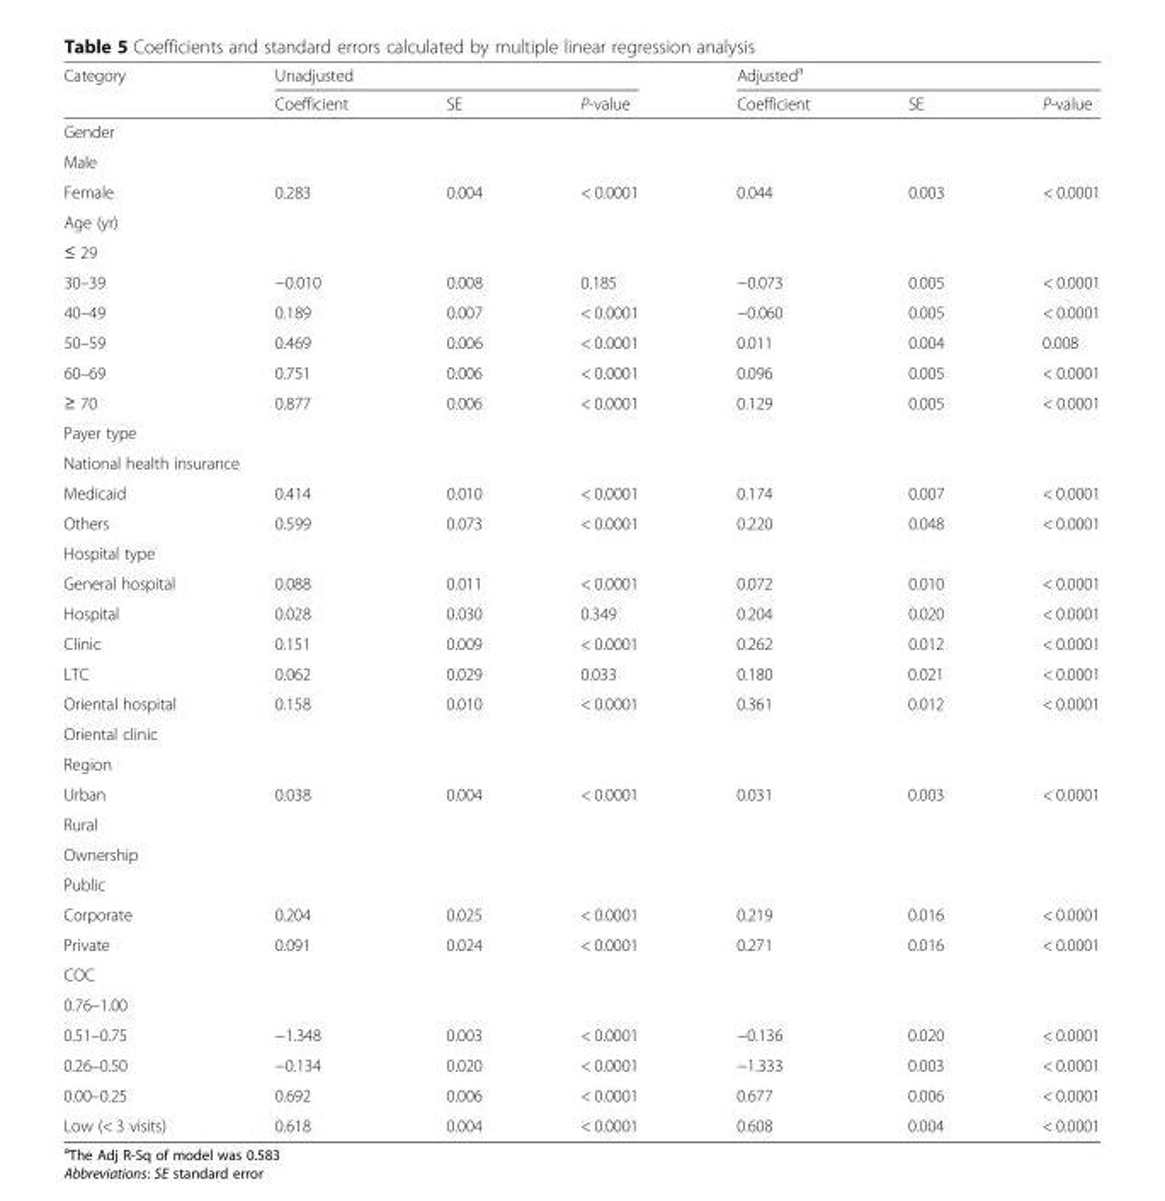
<table><thead><tr><td rowspan="2">Category</td><td colspan="3">Unadjusted</td><td colspan="3">Adjusted<sup>a</sup></td></tr><tr><td>Coefficient</td><td>SE</td><td>P-value</td><td>Coefficient</td><td>SE</td><td>P-value</td></tr></thead><tbody><tr><td colspan="7">Gender</td></tr><tr><td colspan="7">Male</td></tr><tr><td>Female</td><td>0.283</td><td>0.004</td><td>&lt; 0.0001</td><td>0.044</td><td>0.003</td><td>&lt; 0.0001</td></tr><tr><td colspan="7">Age (yr)</td></tr><tr><td colspan="7">≤ 29</td></tr><tr><td>30–39</td><td>−0.010</td><td>0.008</td><td>0.185</td><td>−0.073</td><td>0.005</td><td>&lt; 0.0001</td></tr><tr><td>40–49</td><td>0.189</td><td>0.007</td><td>&lt; 0.0001</td><td>−0.060</td><td>0.005</td><td>&lt; 0.0001</td></tr><tr><td>50–59</td><td>0.469</td><td>0.006</td><td>&lt; 0.0001</td><td>0.011</td><td>0.004</td><td>0.008</td></tr><tr><td>60–69</td><td>0.751</td><td>0.006</td><td>&lt; 0.0001</td><td>0.096</td><td>0.005</td><td>&lt; 0.0001</td></tr><tr><td>≥ 70</td><td>0.877</td><td>0.006</td><td>&lt; 0.0001</td><td>0.129</td><td>0.005</td><td>&lt; 0.0001</td></tr><tr><td colspan="7">Payer type</td></tr><tr><td colspan="7">National health insurance</td></tr><tr><td>Medicaid</td><td>0.414</td><td>0.010</td><td>&lt; 0.0001</td><td>0.174</td><td>0.007</td><td>&lt; 0.0001</td></tr><tr><td>Others</td><td>0.599</td><td>0.073</td><td>&lt; 0.0001</td><td>0.220</td><td>0.048</td><td>&lt; 0.0001</td></tr><tr><td colspan="7">Hospital type</td></tr><tr><td>General hospital</td><td>0.088</td><td>0.011</td><td>&lt; 0.0001</td><td>0.072</td><td>0.010</td><td>&lt; 0.0001</td></tr><tr><td>Hospital</td><td>0.028</td><td>0.030</td><td>0.349</td><td>0.204</td><td>0.020</td><td>&lt; 0.0001</td></tr><tr><td>Clinic</td><td>0.151</td><td>0.009</td><td>&lt; 0.0001</td><td>0.262</td><td>0.012</td><td>&lt; 0.0001</td></tr><tr><td>LTC</td><td>0.062</td><td>0.029</td><td>0.033</td><td>0.180</td><td>0.021</td><td>&lt; 0.0001</td></tr><tr><td>Oriental hospital</td><td>0.158</td><td>0.010</td><td>&lt; 0.0001</td><td>0.361</td><td>0.012</td><td>&lt; 0.0001</td></tr><tr><td colspan="7">Oriental clinic</td></tr><tr><td colspan="7">Region</td></tr><tr><td>Urban</td><td>0.038</td><td>0.004</td><td>&lt; 0.0001</td><td>0.031</td><td>0.003</td><td>&lt; 0.0001</td></tr><tr><td colspan="7">Rural</td></tr><tr><td colspan="7">Ownership</td></tr><tr><td colspan="7">Public</td></tr><tr><td>Corporate</td><td>0.204</td><td>0.025</td><td>&lt; 0.0001</td><td>0.219</td><td>0.016</td><td>&lt; 0.0001</td></tr><tr><td>Private</td><td>0.091</td><td>0.024</td><td>&lt; 0.0001</td><td>0.271</td><td>0.016</td><td>&lt; 0.0001</td></tr><tr><td colspan="7">COC</td></tr><tr><td colspan="7">0.76–1.00</td></tr><tr><td>0.51–0.75</td><td>−1.348</td><td>0.003</td><td>&lt; 0.0001</td><td>−0.136</td><td>0.020</td><td>&lt; 0.0001</td></tr><tr><td>0.26–0.50</td><td>−0.134</td><td>0.020</td><td>&lt; 0.0001</td><td>−1.333</td><td>0.003</td><td>&lt; 0.0001</td></tr><tr><td>0.00–0.25</td><td>0.692</td><td>0.006</td><td>&lt; 0.0001</td><td>0.677</td><td>0.006</td><td>&lt; 0.0001</td></tr><tr><td>Low (&lt; 3 visits)</td><td>0.618</td><td>0.004</td><td>&lt; 0.0001</td><td>0.608</td><td>0.004</td><td>&lt; 0.0001</td></tr></tbody></table>